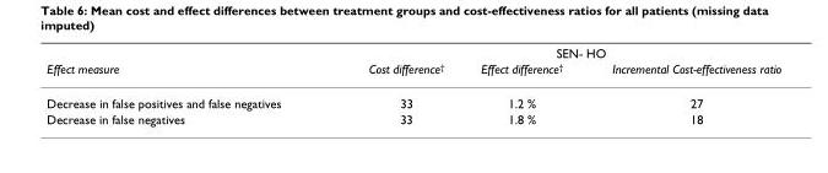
<table><thead><tr><td rowspan="2">Effect measure</td><td colspan="3">SEN- HO</td></tr><tr><td>Cost difference<sup>†</sup></td><td>Effect difference<sup>†</sup></td><td>Incremental Cost-effectiveness ratio</td></tr></thead><tbody><tr><td>Decrease in false positives and false negatives</td><td>33</td><td>1.2 %</td><td>27</td></tr><tr><td>Decrease in false negatives</td><td>33</td><td>1.8 %</td><td>18</td></tr></tbody></table>